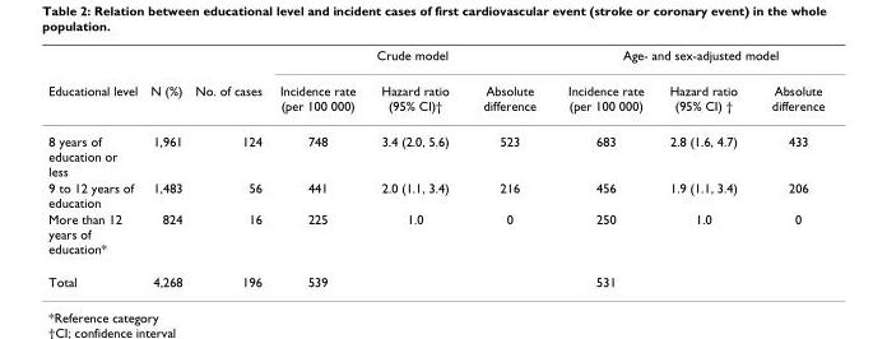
<table><thead><tr><td rowspan="2">Educational level</td><td rowspan="2">N (%)</td><td rowspan="2">No. of cases</td><td colspan="3">Crude model</td><td colspan="3">Age- and sex-adjusted model</td></tr><tr><td>Incidence rate (per 100 000)</td><td>Hazard ratio (95% CI)†</td><td>Absolute difference</td><td>Incidence rate (per 100 000)</td><td>Hazard ratio (95% CI) †</td><td>Absolute difference</td></tr></thead><tbody><tr><td>8 years of education or less</td><td>1,961</td><td>124</td><td>748</td><td>3.4 (2.0, 5.6)</td><td>523</td><td>683</td><td>2.8 (1.6, 4.7)</td><td>433</td></tr><tr><td>9 to 12 years of education</td><td>1,483</td><td>56</td><td>441</td><td>2.0 (1.1, 3.4)</td><td>216</td><td>456</td><td>1.9 (1.1, 3.4)</td><td>206</td></tr><tr><td>More than 12 years of education*</td><td>824</td><td>16</td><td>225</td><td>1.0</td><td>0</td><td>250</td><td>1.0</td><td>0</td></tr><tr><td>Total</td><td>4,268</td><td>196</td><td>539</td><td></td><td></td><td>531</td><td></td><td></td></tr></tbody></table>